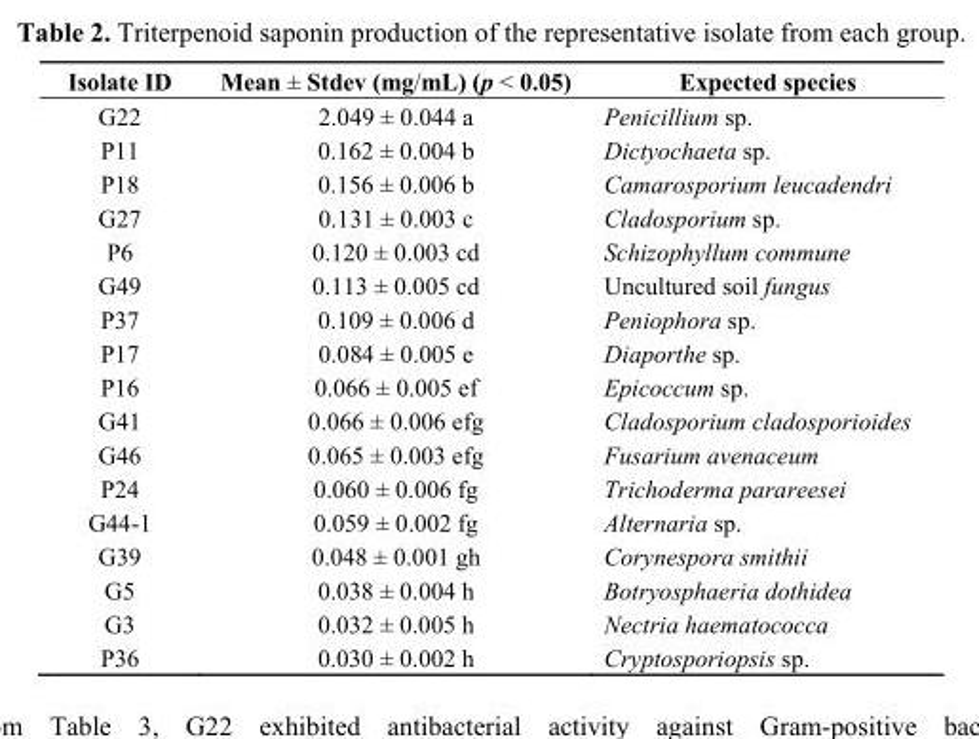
<table><thead><tr><td>Isolate ID</td><td>Mean ± Stdev (mg/mL) (p &lt; 0.05)</td><td>Expected species</td></tr></thead><tbody><tr><td>G22</td><td>2.049 ± 0.044 a</td><td>Penicillium sp.</td></tr><tr><td>P11</td><td>0.162 ± 0.004 b</td><td>Dictyochaeta sp.</td></tr><tr><td>P18</td><td>0.156 ± 0.006 b</td><td>Camarosporium leucadendri</td></tr><tr><td>G27</td><td>0.131 ± 0.003 c</td><td>Cladosporium sp.</td></tr><tr><td>P6</td><td>0.120 ± 0.003 cd</td><td>Schizophyllum commune</td></tr><tr><td>G49</td><td>0.113 ± 0.005 cd</td><td>Uncultured soil fungus</td></tr><tr><td>P37</td><td>0.109 ± 0.006 d</td><td>Peniophora sp.</td></tr><tr><td>P17</td><td>0.084 ± 0.005 e</td><td>Diaporthe sp.</td></tr><tr><td>P16</td><td>0.066 ± 0.005 ef</td><td>Epicoccum sp.</td></tr><tr><td>G41</td><td>0.066 ± 0.006 efg</td><td>Cladosporium cladosporioides</td></tr><tr><td>G46</td><td>0.065 ± 0.003 efg</td><td>Fusarium avenaceum</td></tr><tr><td>P24</td><td>0.060 ± 0.006 fg</td><td>Trichoderma parareesei</td></tr><tr><td>G44-1</td><td>0.059 ± 0.002 fg</td><td>Alternaria sp.</td></tr><tr><td>G39</td><td>0.048 ± 0.001 gh</td><td>Corynespora smithii</td></tr><tr><td>G5</td><td>0.038 ± 0.004 h</td><td>Botryosphaeria dothidea</td></tr><tr><td>G3</td><td>0.032 ± 0.005 h</td><td>Nectria haematococca</td></tr><tr><td>P36</td><td>0.030 ± 0.002 h</td><td>Cryptosporiopsis sp.</td></tr></tbody></table>